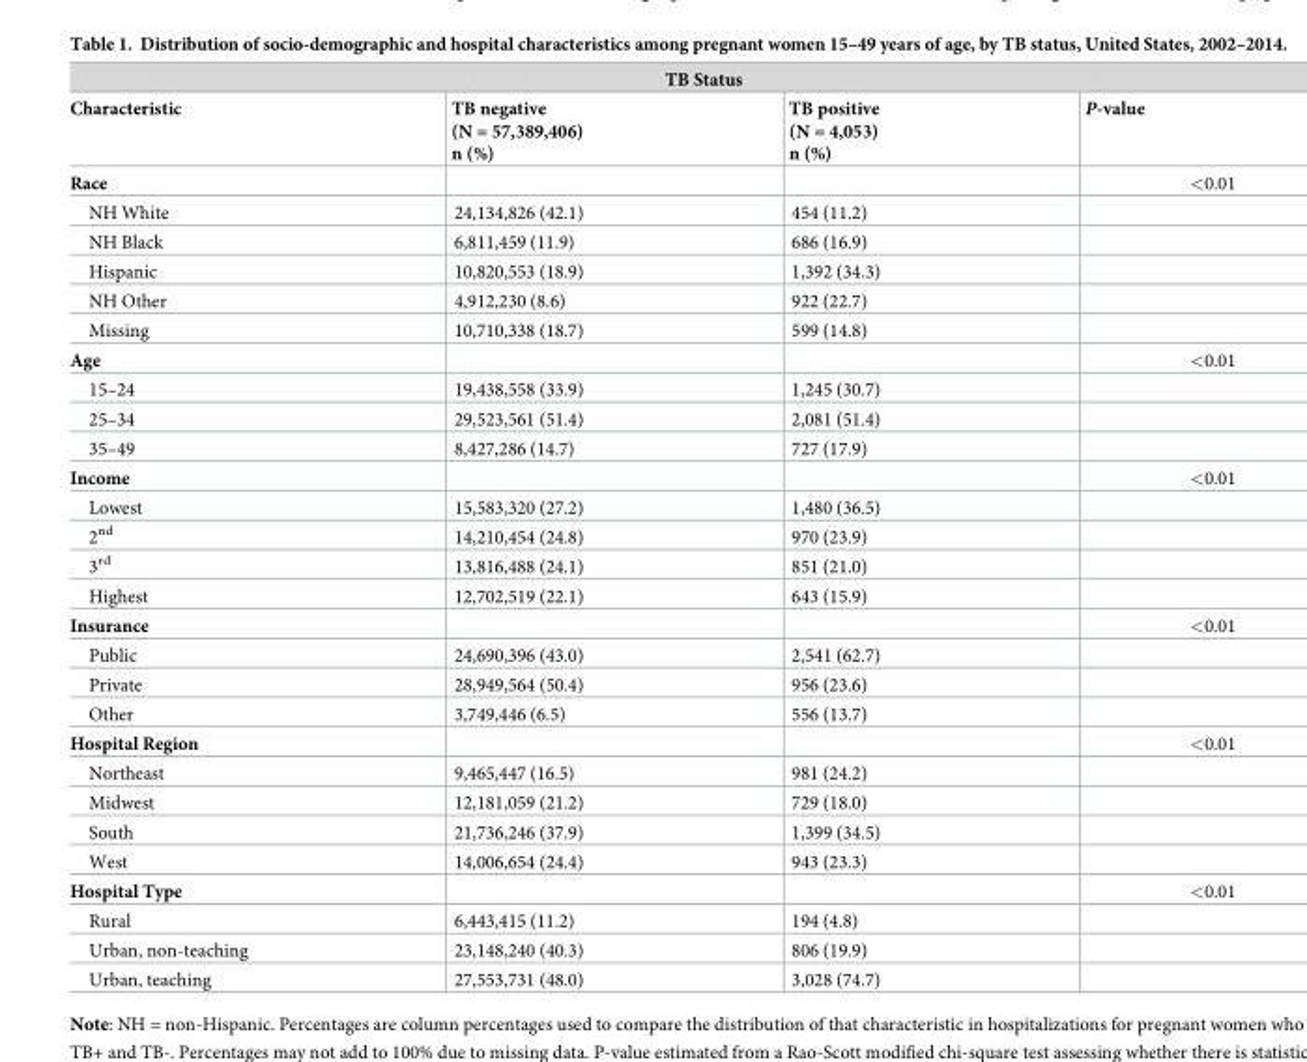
<table><thead><tr><td colspan="4">TB Status</td></tr><tr><td>Characteristic</td><td>TB negative (N = 57,389,406) n (%)</td><td>TB positive (N = 4,053) n (%)</td><td>P-value</td></tr></thead><tbody><tr><td>Race</td><td></td><td></td><td>&lt;0.01</td></tr><tr><td>NH White</td><td>24,134,826 (42.1)</td><td>454 (11.2)</td><td></td></tr><tr><td>NH Black</td><td>6,811,459 (11.9)</td><td>686 (16.9)</td><td></td></tr><tr><td>Hispanic</td><td>10,820,553 (18.9)</td><td>1,392 (34.3)</td><td></td></tr><tr><td>NH Other</td><td>4,912,230 (8.6)</td><td>922 (22.7)</td><td></td></tr><tr><td>Missing</td><td>10,710,338 (18.7)</td><td>599 (14.8)</td><td></td></tr><tr><td>Age</td><td></td><td></td><td>&lt;0.01</td></tr><tr><td>15–24</td><td>19,438,558 (33.9)</td><td>1,245 (30.7)</td><td></td></tr><tr><td>25–34</td><td>29,523,561 (51.4)</td><td>2,081 (51.4)</td><td></td></tr><tr><td>35–49</td><td>8,427,286 (14.7)</td><td>727 (17.9)</td><td></td></tr><tr><td>Income</td><td></td><td></td><td>&lt;0.01</td></tr><tr><td>Lowest</td><td>15,583,320 (27.2)</td><td>1,480 (36.5)</td><td></td></tr><tr><td>2<sup>nd</sup></td><td>14,210,454 (24.8)</td><td>970 (23.9)</td><td></td></tr><tr><td>3<sup>rd</sup></td><td>13,816,488 (24.1)</td><td>851 (21.0)</td><td></td></tr><tr><td>Highest</td><td>12,702,519 (22.1)</td><td>643 (15.9)</td><td></td></tr><tr><td>Insurance</td><td></td><td></td><td>&lt;0.01</td></tr><tr><td>Public</td><td>24,690,396 (43.0)</td><td>2,541 (62.7)</td><td></td></tr><tr><td>Private</td><td>28,949,564 (50.4)</td><td>956 (23.6)</td><td></td></tr><tr><td>Other</td><td>3,749,446 (6.5)</td><td>556 (13.7)</td><td></td></tr><tr><td>Hospital Region</td><td></td><td></td><td>&lt;0.01</td></tr><tr><td>Northeast</td><td>9,465,447 (16.5)</td><td>981 (24.2)</td><td></td></tr><tr><td>Midwest</td><td>12,181,059 (21.2)</td><td>729 (18.0)</td><td></td></tr><tr><td>South</td><td>21,736,246 (37.9)</td><td>1,399 (34.5)</td><td></td></tr><tr><td>West</td><td>14,006,654 (24.4)</td><td>943 (23.3)</td><td></td></tr><tr><td>Hospital Type</td><td></td><td></td><td>&lt;0.01</td></tr><tr><td>Rural</td><td>6,443,415 (11.2)</td><td>194 (4.8)</td><td></td></tr><tr><td>Urban, non-teaching</td><td>23,148,240 (40.3)</td><td>806 (19.9)</td><td></td></tr><tr><td>Urban, teaching</td><td>27,553,731 (48.0)</td><td>3,028 (74.7)</td><td></td></tr></tbody></table>